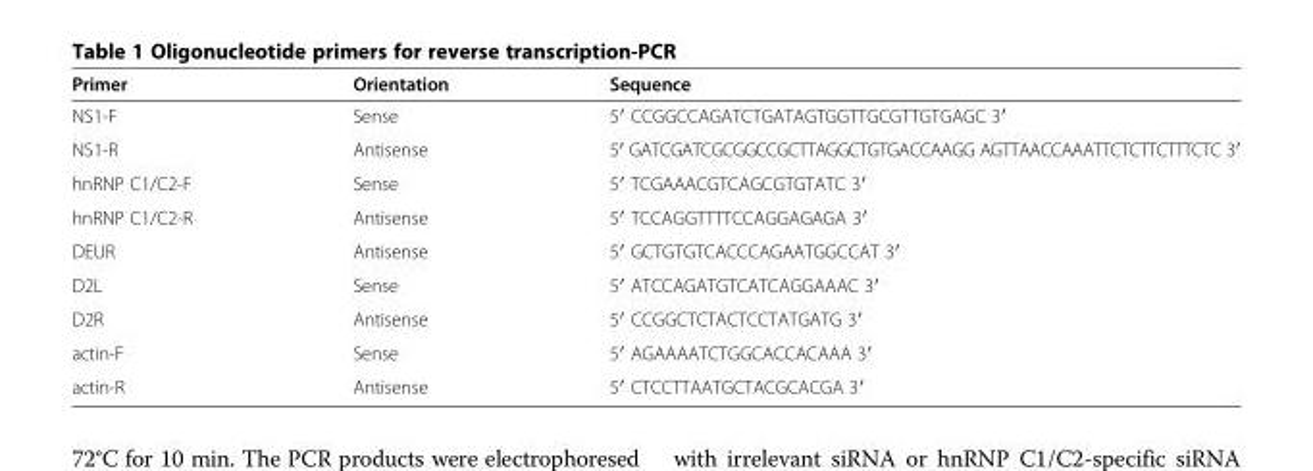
<table><thead><tr><td>Primer</td><td>Orientation</td><td>Sequence</td></tr></thead><tbody><tr><td>NS1-F</td><td>Sense</td><td>5′ CCGGCCAGATCTGATAGTGGTTGCGTTGTGAGC 3′</td></tr><tr><td>NS1-R</td><td>Antisense</td><td>5′ GATCGATCGCGGCCGCTTAGGCTGTGACCAAGG AGTTAACCAAATTCTCTTCTTTCTC 3′</td></tr><tr><td>hnRNP C1/C2-F</td><td>Sense</td><td>5′ TCGAAACGTCAGCGTGTATC 3′</td></tr><tr><td>hnRNP C1/C2-R</td><td>Antisense</td><td>5′ TCCAGGTTTTCCAGGAGAGA 3′</td></tr><tr><td>DEUR</td><td>Antisense</td><td>5′ GCTGTGTCACCCAGAATGGCCAT 3′</td></tr><tr><td>D2L</td><td>Sense</td><td>5′ ATCCAGATGTCATCAGGAAAC 3′</td></tr><tr><td>D2R</td><td>Antisense</td><td>5′ CCGGCTCTACTCCTATGATG 3′</td></tr><tr><td>actin-F</td><td>Sense</td><td>5′ AGAAAATCTGGCACCACAAA 3′</td></tr><tr><td>actin-R</td><td>Antisense</td><td>5′ CTCCTTAATGCTACGCACGA 3′</td></tr></tbody></table>